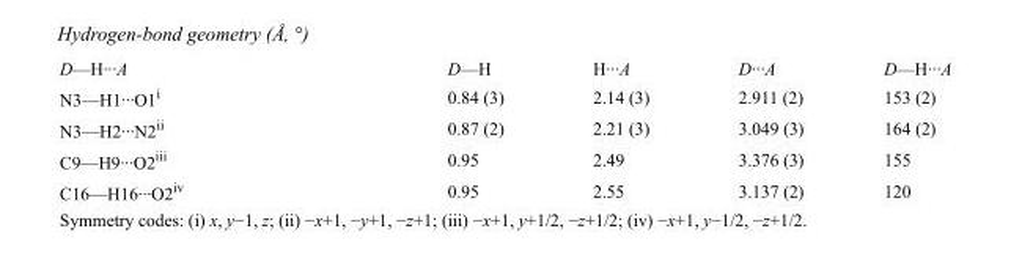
<table><tbody><tr><td>D—H···A</td><td>D—H</td><td>H···A</td><td>D···A</td><td>D—H···A</td></tr><tr><td>N3—H1···O1<sup>i</sup></td><td>0.84 (3)</td><td>2.14 (3)</td><td>2.911 (2)</td><td>153 (2)</td></tr><tr><td>N3—H2···N2<sup>ii</sup></td><td>0.87 (2)</td><td>2.21 (3)</td><td>3.049 (3)</td><td>164 (2)</td></tr><tr><td>C9—H9···O2<sup>iii</sup></td><td>0.95</td><td>2.49</td><td>3.376 (3)</td><td>155</td></tr><tr><td>C16—H16···O2<sup>iv</sup></td><td>0.95</td><td>2.55</td><td>3.137 (2)</td><td>120</td></tr></tbody></table>